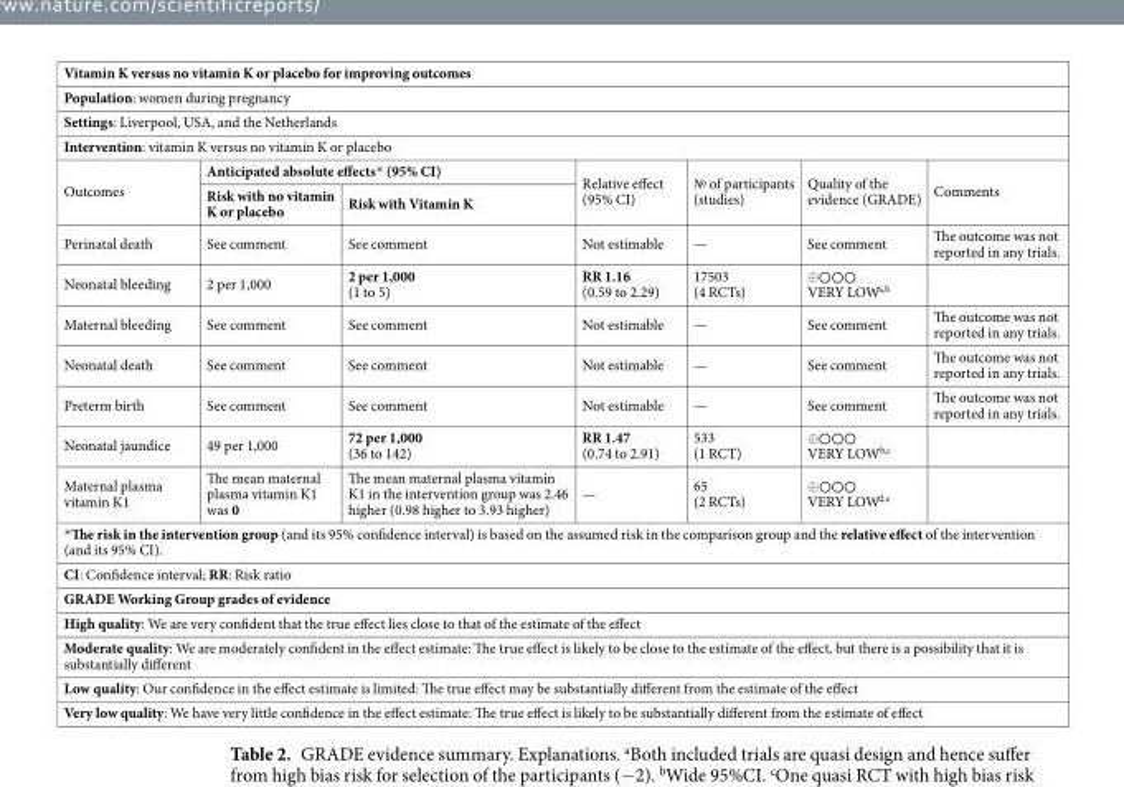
<table><tbody><tr><td colspan="7">Vitamin K versus no vitamin K or placebo for improving outcomes</td></tr><tr><td colspan="7">Population: women during pregnancy</td></tr><tr><td colspan="7">Settings: Liverpool, USA, and the Netherlands</td></tr><tr><td colspan="7">Intervention: vitamin K versus no vitamin K or placebo</td></tr><tr><td rowspan="2">Outcomes</td><td colspan="2">Anticipated absolute effects* (95% CI)</td><td rowspan="2">Relative effect (95% CI)</td><td rowspan="2">№ of participants (studies)</td><td rowspan="2">Quality of the evidence (GRADE)</td><td rowspan="2">Comments</td></tr><tr><td>Risk with no vitamin K or placebo</td><td>Risk with Vitamin K</td></tr><tr><td>Perinatal death</td><td>See comment</td><td>See comment</td><td>Not estimable</td><td>—</td><td>See comment</td><td>The outcome was not reported in any trials.</td></tr><tr><td>Neonatal bleeding</td><td>2 per 1,000</td><td>2 per 1,000 (1 to 5)</td><td>RR 1.16 (0.59 to 2.29)</td><td>17503 (4 RCTs)</td><td>⊕○○○ VERY LOW<sup>a,b</sup></td><td></td></tr><tr><td>Maternal bleeding</td><td>See comment</td><td>See comment</td><td>Not estimable</td><td>—</td><td>See comment</td><td>The outcome was not reported in any trials.</td></tr><tr><td>Neonatal death</td><td>See comment</td><td>See comment</td><td>Not estimable</td><td>—</td><td>See comment</td><td>The outcome was not reported in any trials.</td></tr><tr><td>Preterm birth</td><td>See comment</td><td>See comment</td><td>Not estimable</td><td>—</td><td>See comment</td><td>The outcome was not reported in any trials.</td></tr><tr><td>Neonatal jaundice</td><td>49 per 1,000</td><td>72 per 1,000 (36 to 142)</td><td>RR 1.47 (0.74 to 2.91)</td><td>533 (1 RCT)</td><td>⊕○○○ VERY LOW<sup>b,c</sup></td><td></td></tr><tr><td>Maternal plasma vitamin K1</td><td>The mean maternal plasma vitamin K1 was 0</td><td>The mean maternal plasma vitamin K1 in the intervention group was 2.46 higher (0.98 higher to 3.93 higher)</td><td>—</td><td>65 (2 RCTs)</td><td>⊕○○○ VERY LOW<sup>d,e</sup></td><td></td></tr><tr><td colspan="7">*The risk in the intervention group (and its 95% confidence interval) is based on the assumed risk in the comparison group and the relative effect of the intervention (and its 95% CI).</td></tr><tr><td colspan="7">CI: Confidence interval; RR: Risk ratio</td></tr><tr><td colspan="7">GRADE Working Group grades of evidence</td></tr><tr><td colspan="7">High quality: We are very confident that the true effect lies close to that of the estimate of the effect</td></tr><tr><td colspan="7">Moderate quality: We are moderately confident in the effect estimate: The true effect is likely to be close to the estimate of the effect, but there is a possibility that it is substantially different</td></tr><tr><td colspan="7">Low quality: Our confidence in the effect estimate is limited: The true effect may be substantially different from the estimate of the effect</td></tr><tr><td colspan="7">Very low quality: We have very little confidence in the effect estimate: The true effect is likely to be substantially different from the estimate of effect</td></tr></tbody></table>